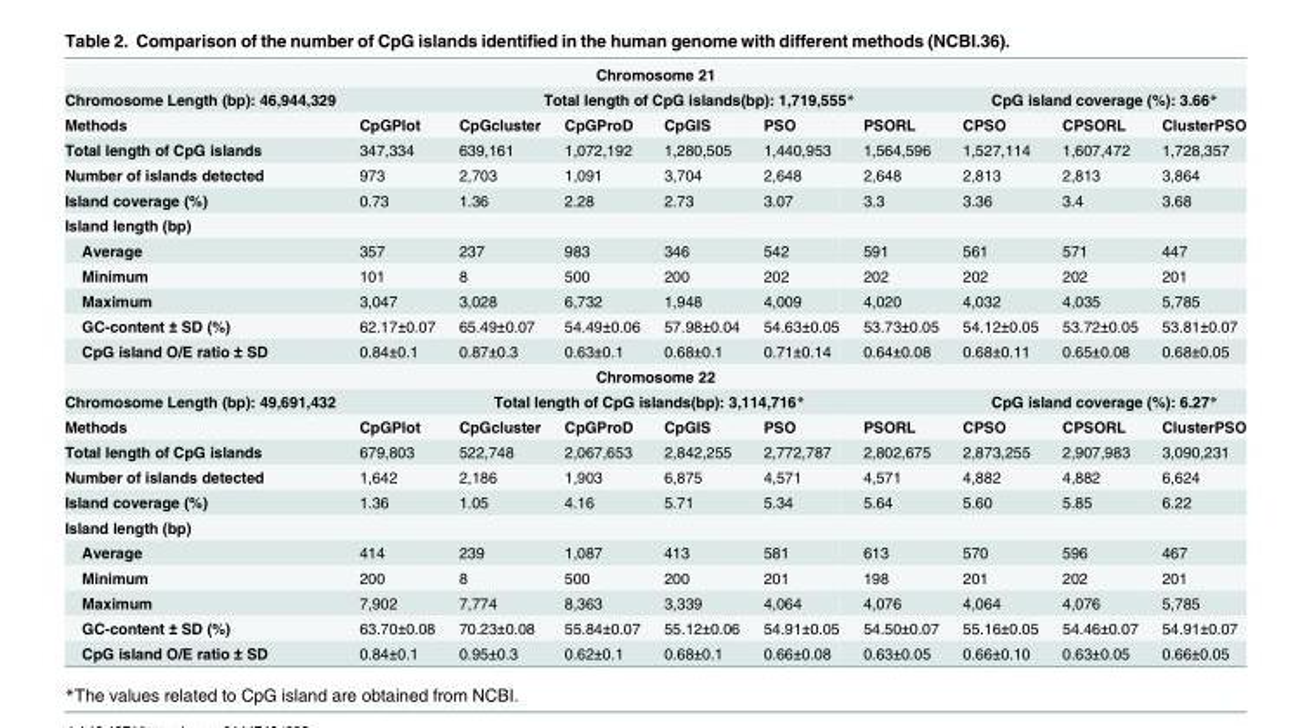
<table><tbody><tr><td colspan="10">Chromosome 21</td></tr><tr><td colspan="2">Chromosome Length (bp): 46,944,329</td><td colspan="5">Total length of CpG islands(bp): 1,719,555*</td><td colspan="3">CpG island coverage (%): 3.66*</td></tr><tr><td>Methods</td><td>CpGPlot</td><td>CpGcluster</td><td>CpGProD</td><td>CpGIS</td><td>PSO</td><td>PSORL</td><td>CPSO</td><td>CPSORL</td><td>ClusterPSO</td></tr><tr><td>Total length of CpG islands</td><td>347,334</td><td>639,161</td><td>1,072,192</td><td>1,280,505</td><td>1,440,953</td><td>1,564,596</td><td>1,527,114</td><td>1,607,472</td><td>1,728,357</td></tr><tr><td>Number of islands detected</td><td>973</td><td>2,703</td><td>1,091</td><td>3,704</td><td>2,648</td><td>2,648</td><td>2,813</td><td>2,813</td><td>3,864</td></tr><tr><td>Island coverage (%)</td><td>0.73</td><td>1.36</td><td>2.28</td><td>2.73</td><td>3.07</td><td>3.3</td><td>3.36</td><td>3.4</td><td>3.68</td></tr><tr><td colspan="10">Island length (bp)</td></tr><tr><td>Average</td><td>357</td><td>237</td><td>983</td><td>346</td><td>542</td><td>591</td><td>561</td><td>571</td><td>447</td></tr><tr><td>Minimum</td><td>101</td><td>8</td><td>500</td><td>200</td><td>202</td><td>202</td><td>202</td><td>202</td><td>201</td></tr><tr><td>Maximum</td><td>3,047</td><td>3,028</td><td>6,732</td><td>1,948</td><td>4,009</td><td>4,020</td><td>4,032</td><td>4,035</td><td>5,785</td></tr><tr><td>GC-content ± SD (%)</td><td>62.17±0.07</td><td>65.49±0.07</td><td>54.49±0.06</td><td>57.98±0.04</td><td>54.63±0.05</td><td>53.73±0.05</td><td>54.12±0.05</td><td>53.72±0.05</td><td>53.81±0.07</td></tr><tr><td>CpG island O/E ratio ± SD</td><td>0.84±0.1</td><td>0.87±0.3</td><td>0.63±0.1</td><td>0.68±0.1</td><td>0.71±0.14</td><td>0.64±0.08</td><td>0.68±0.11</td><td>0.65±0.08</td><td>0.68±0.05</td></tr><tr><td colspan="10">Chromosome 22</td></tr><tr><td>Chromosome Length (bp): 49,691,432</td><td colspan="6">Total length of CpG islands(bp): 3,114,716*</td><td colspan="3">CpG island coverage (%): 6.27*</td></tr><tr><td>Methods</td><td>CpGPlot</td><td>CpGcluster</td><td>CpGProD</td><td>CpGIS</td><td>PSO</td><td>PSORL</td><td>CPSO</td><td>CPSORL</td><td>ClusterPSO</td></tr><tr><td>Total length of CpG islands</td><td>679,803</td><td>522,748</td><td>2,067,653</td><td>2,842,255</td><td>2,772,787</td><td>2,802,675</td><td>2,873,255</td><td>2,907,983</td><td>3,090,231</td></tr><tr><td>Number of islands detected</td><td>1,642</td><td>2,186</td><td>1,903</td><td>6,875</td><td>4,571</td><td>4,571</td><td>4,882</td><td>4,882</td><td>6,624</td></tr><tr><td>Island coverage (%)</td><td>1.36</td><td>1.05</td><td>4.16</td><td>5.71</td><td>5.34</td><td>5.64</td><td>5.60</td><td>5.85</td><td>6.22</td></tr><tr><td colspan="10">Island length (bp)</td></tr><tr><td>Average</td><td>414</td><td>239</td><td>1,087</td><td>413</td><td>581</td><td>613</td><td>570</td><td>596</td><td>467</td></tr><tr><td>Minimum</td><td>200</td><td>8</td><td>500</td><td>200</td><td>201</td><td>198</td><td>201</td><td>202</td><td>201</td></tr><tr><td>Maximum</td><td>7,902</td><td>7,774</td><td>8,363</td><td>3,339</td><td>4,064</td><td>4,076</td><td>4,064</td><td>4,076</td><td>5,785</td></tr><tr><td>GC-content ± SD (%)</td><td>63.70±0.08</td><td>70.23±0.08</td><td>55.84±0.07</td><td>55.12±0.06</td><td>54.91±0.05</td><td>54.50±0.07</td><td>55.16±0.05</td><td>54.46±0.07</td><td>54.91±0.07</td></tr><tr><td>CpG island O/E ratio ± SD</td><td>0.84±0.1</td><td>0.95±0.3</td><td>0.62±0.1</td><td>0.68±0.1</td><td>0.66±0.08</td><td>0.63±0.05</td><td>0.66±0.10</td><td>0.63±0.05</td><td>0.66±0.05</td></tr></tbody></table>